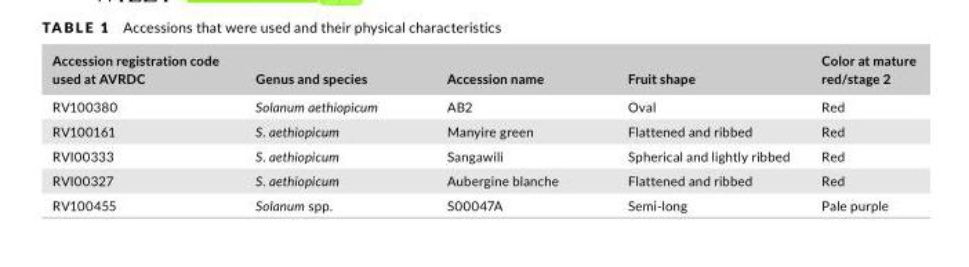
<table><thead><tr><td>Accession registration code used at AVRDC</td><td>Genus and species</td><td>Accession name</td><td>Fruit shape</td><td>Color at mature red/stage 2</td></tr></thead><tbody><tr><td>RV100380</td><td>Solanum aethiopicum</td><td>AB2</td><td>Oval</td><td>Red</td></tr><tr><td>RV100161</td><td>S. aethiopicum</td><td>Manyire green</td><td>Flattened and ribbed</td><td>Red</td></tr><tr><td>RVI00333</td><td>S. aethiopicum</td><td>Sangawili</td><td>Spherical and lightly ribbed</td><td>Red</td></tr><tr><td>RVI00327</td><td>S. aethiopicum</td><td>Aubergine blanche</td><td>Flattened and ribbed</td><td>Red</td></tr><tr><td>RV100455</td><td>Solanum spp.</td><td>S00047A</td><td>Semi- long</td><td>Pale purple</td></tr></tbody></table>